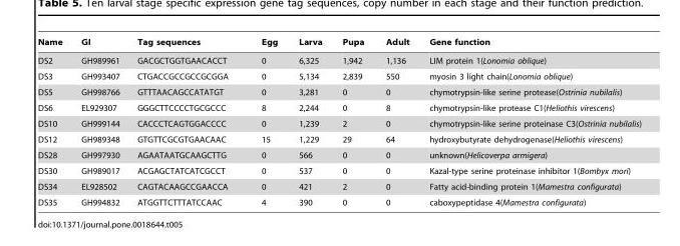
<table><thead><tr><td>Name</td><td>GI</td><td>Tag sequences</td><td>Egg</td><td>Larva</td><td>Pupa</td><td>Adult</td><td>Gene function</td></tr></thead><tbody><tr><td>DS2</td><td>GH989961</td><td>GACGCTGGTGAACACCT</td><td>0</td><td>6,325</td><td>1,942</td><td>1,136</td><td>LIM protein 1(Lonomia oblique)</td></tr><tr><td>DS3</td><td>GH993407</td><td>CTGACCGCCGCCGCGGA</td><td>0</td><td>5,134</td><td>2,839</td><td>550</td><td>myosin 3 light chain(Lonomia oblique)</td></tr><tr><td>DS5</td><td>GH998766</td><td>GTTTAACAGCCATATGT</td><td>0</td><td>3,281</td><td>0</td><td>0</td><td>chymotrypsin-like serine protease(Ostrinia nubilalis)</td></tr><tr><td>DS6</td><td>EL929307</td><td>GGGCTTCCCCTGCGCCC</td><td>8</td><td>2,244</td><td>0</td><td>8</td><td>chymotrypsin-like protease C1(Heliothis virescens)</td></tr><tr><td>DS10</td><td>GH999144</td><td>CACCCTCAGTGGACCCC</td><td>0</td><td>1,239</td><td>2</td><td>0</td><td>chymotrypsin-like serine proteinase C3(Ostrinia nubilalis)</td></tr><tr><td>DS12</td><td>GH989348</td><td>GTGTTCGCGTGAACAAC</td><td>15</td><td>1,229</td><td>29</td><td>64</td><td>hydroxybutyrate dehydrogenase(Heliothis virescens)</td></tr><tr><td>DS28</td><td>GH997930</td><td>AGAATAATGCAAGCTTG</td><td>0</td><td>566</td><td>0</td><td>0</td><td>unknown(Helicoverpa armigera)</td></tr><tr><td>DS30</td><td>GH989017</td><td>ACGAGCTATCATCGCCT</td><td>0</td><td>537</td><td>0</td><td>0</td><td>Kazal-type serine proteinase inhibitor 1(Bombyx mori)</td></tr><tr><td>DS34</td><td>EL928502</td><td>CAGTACAAGCCGAACCA</td><td>0</td><td>421</td><td>2</td><td>0</td><td>Fatty acid-binding protein 1(Mamestra configurata)</td></tr><tr><td>DS35</td><td>GH994832</td><td>ATGGTTCTTTATCCAAC</td><td>4</td><td>390</td><td>0</td><td>0</td><td>caboxypeptidase 4(Mamestra configurata)</td></tr></tbody></table>